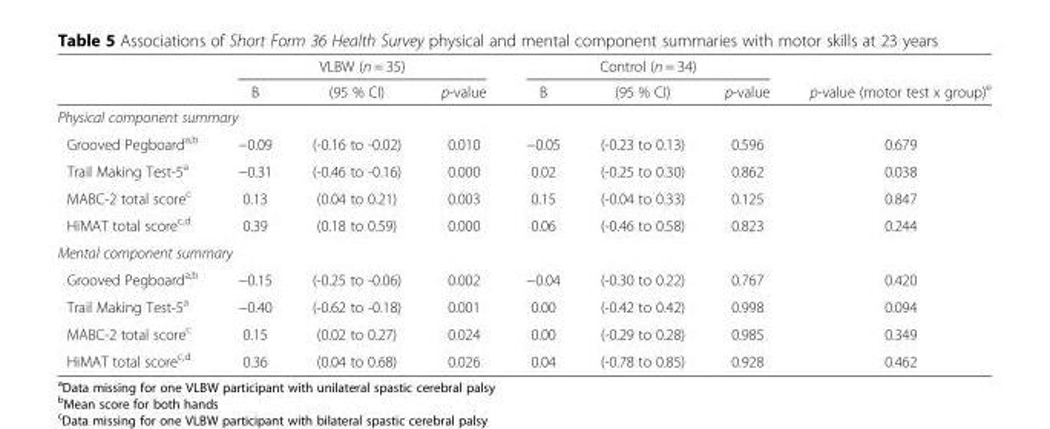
<table><thead><tr><td rowspan="2"></td><td colspan="3">VLBW (n = 35)</td><td colspan="3">Control (n = 34)</td><td rowspan="2">p-value (motor test x group)<sup>e</sup></td></tr><tr><td>B</td><td>(95 % CI)</td><td>p-value</td><td>B</td><td>(95 % CI)</td><td>p-value</td></tr></thead><tbody><tr><td colspan="8">Physical component summary</td></tr><tr><td>Grooved Pegboard<sup>a,b</sup></td><td>−0.09</td><td>(-0.16 to -0.02)</td><td>0.010</td><td>−0.05</td><td>(-0.23 to 0.13)</td><td>0.596</td><td>0.679</td></tr><tr><td>Trail Making Test-5<sup>a</sup></td><td>−0.31</td><td>(-0.46 to -0.16)</td><td>0.000</td><td>0.02</td><td>(-0.25 to 0.30)</td><td>0.862</td><td>0.038</td></tr><tr><td>MABC-2 total score<sup>c</sup></td><td>0.13</td><td>(0.04 to 0.21)</td><td>0.003</td><td>0.15</td><td>(-0.04 to 0.33)</td><td>0.125</td><td>0.847</td></tr><tr><td>HiMAT total score<sup>c,d</sup></td><td>0.39</td><td>(0.18 to 0.59)</td><td>0.000</td><td>0.06</td><td>(-0.46 to 0.58)</td><td>0.823</td><td>0.244</td></tr><tr><td colspan="8">Mental component summary</td></tr><tr><td>Grooved Pegboard<sup>a,b</sup></td><td>−0.15</td><td>(-0.25 to -0.06)</td><td>0.002</td><td>−0.04</td><td>(-0.30 to 0.22)</td><td>0.767</td><td>0.420</td></tr><tr><td>Trail Making Test-5<sup>a</sup></td><td>−0.40</td><td>(-0.62 to -0.18)</td><td>0.001</td><td>0.00</td><td>(-0.42 to 0.42)</td><td>0.998</td><td>0.094</td></tr><tr><td>MABC-2 total score<sup>c</sup></td><td>0.15</td><td>(0.02 to 0.27)</td><td>0.024</td><td>0.00</td><td>(-0.29 to 0.28)</td><td>0.985</td><td>0.349</td></tr><tr><td>HiMAT total score<sup>c,d</sup></td><td>0.36</td><td>(0.04 to 0.68)</td><td>0.026</td><td>0.04</td><td>(-0.78 to 0.85)</td><td>0.928</td><td>0.462</td></tr></tbody></table>